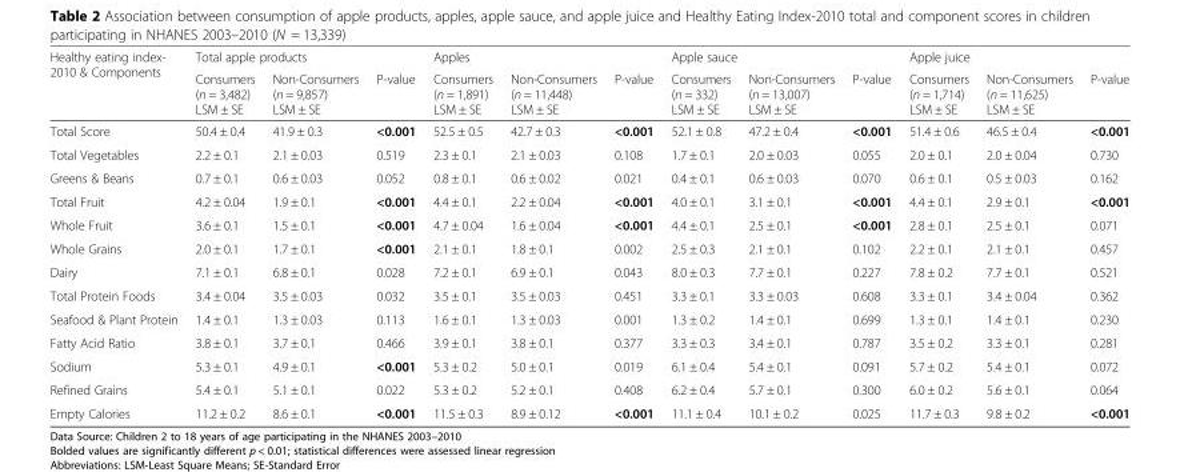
<table><thead><tr><td rowspan="2">Healthy eating index- 2010 &amp; Components</td><td colspan="3">Total apple products</td><td colspan="3">Apples</td><td colspan="3">Apple sauce</td><td colspan="3">Apple juice</td></tr><tr><td>Consumers (n = 3,482) LSM ± SE</td><td>Non-Consumers (n = 9,857) LSM ± SE</td><td>P-value</td><td>Consumers (n = 1,891) LSM ± SE</td><td>Non-Consumers (n = 11,448) LSM ± SE</td><td>P-value</td><td>Consumers (n = 332) LSM ± SE</td><td>Non-Consumers (n = 13,007) LSM ± SE</td><td>P-value</td><td>Consumers (n = 1,714) LSM ± SE</td><td>Non-Consumers (n = 11,625) LSM ± SE</td><td>P-value</td></tr></thead><tbody><tr><td>Total Score</td><td>50.4 ± 0.4</td><td>41.9 ± 0.3</td><td>&lt;0.001</td><td>52.5 ± 0.5</td><td>42.7 ± 0.3</td><td>&lt;0.001</td><td>52.1 ± 0.8</td><td>47.2 ± 0.4</td><td>&lt;0.001</td><td>51.4 ± 0.6</td><td>46.5 ± 0.4</td><td>&lt;0.001</td></tr><tr><td>Total Vegetables</td><td>2.2 ± 0.1</td><td>2.1 ± 0.03</td><td>0.519</td><td>2.3 ± 0.1</td><td>2.1 ± 0.03</td><td>0.108</td><td>1.7 ± 0.1</td><td>2.0 ± 0.03</td><td>0.055</td><td>2.0 ± 0.1</td><td>2.0 ± 0.04</td><td>0.730</td></tr><tr><td>Greens &amp; Beans</td><td>0.7 ± 0.1</td><td>0.6 ± 0.03</td><td>0.052</td><td>0.8 ± 0.1</td><td>0.6 ± 0.02</td><td>0.021</td><td>0.4 ± 0.1</td><td>0.6 ± 0.03</td><td>0.070</td><td>0.6 ± 0.1</td><td>0.5 ± 0.03</td><td>0.162</td></tr><tr><td>Total Fruit</td><td>4.2 ± 0.04</td><td>1.9 ± 0.1</td><td>&lt;0.001</td><td>4.4 ± 0.1</td><td>2.2 ± 0.04</td><td>&lt;0.001</td><td>4.0 ± 0.1</td><td>3.1 ± 0.1</td><td>&lt;0.001</td><td>4.4 ± 0.1</td><td>2.9 ± 0.1</td><td>&lt;0.001</td></tr><tr><td>Whole Fruit</td><td>3.6 ± 0.1</td><td>1.5 ± 0.1</td><td>&lt;0.001</td><td>4.7 ± 0.04</td><td>1.6 ± 0.04</td><td>&lt;0.001</td><td>4.4 ± 0.1</td><td>2.5 ± 0.1</td><td>&lt;0.001</td><td>2.8 ± 0.1</td><td>2.5 ± 0.1</td><td>0.071</td></tr><tr><td>Whole Grains</td><td>2.0 ± 0.1</td><td>1.7 ± 0.1</td><td>&lt;0.001</td><td>2.1 ± 0.1</td><td>1.8 ± 0.1</td><td>0.002</td><td>2.5 ± 0.3</td><td>2.1 ± 0.1</td><td>0.102</td><td>2.2 ± 0.1</td><td>2.1 ± 0.1</td><td>0.457</td></tr><tr><td>Dairy</td><td>7.1 ± 0.1</td><td>6.8 ± 0.1</td><td>0.028</td><td>7.2 ± 0.1</td><td>6.9 ± 0.1</td><td>0.043</td><td>8.0 ± 0.3</td><td>7.7 ± 0.1</td><td>0.227</td><td>7.8 ± 0.2</td><td>7.7 ± 0.1</td><td>0.521</td></tr><tr><td>Total Protein Foods</td><td>3.4 ± 0.04</td><td>3.5 ± 0.03</td><td>0.032</td><td>3.5 ± 0.1</td><td>3.5 ± 0.03</td><td>0.451</td><td>3.3 ± 0.1</td><td>3.3 ± 0.03</td><td>0.608</td><td>3.3 ± 0.1</td><td>3.4 ± 0.04</td><td>0.362</td></tr><tr><td>Seafood &amp; Plant Protein</td><td>1.4 ± 0.1</td><td>1.3 ± 0.03</td><td>0.113</td><td>1.6 ± 0.1</td><td>1.3 ± 0.03</td><td>0.001</td><td>1.3 ± 0.2</td><td>1.4 ± 0.1</td><td>0.699</td><td>1.3 ± 0.1</td><td>1.4 ± 0.1</td><td>0.230</td></tr><tr><td>Fatty Acid Ratio</td><td>3.8 ± 0.1</td><td>3.7 ± 0.1</td><td>0.466</td><td>3.9 ± 0.1</td><td>3.8 ± 0.1</td><td>0.377</td><td>3.3 ± 0.3</td><td>3.4 ± 0.1</td><td>0.787</td><td>3.5 ± 0.2</td><td>3.3 ± 0.1</td><td>0.281</td></tr><tr><td>Sodium</td><td>5.3 ± 0.1</td><td>4.9 ± 0.1</td><td>&lt;0.001</td><td>5.3 ± 0.2</td><td>5.0 ± 0.1</td><td>0.019</td><td>6.1 ± 0.4</td><td>5.4 ± 0.1</td><td>0.091</td><td>5.7 ± 0.2</td><td>5.4 ± 0.1</td><td>0.072</td></tr><tr><td>Refined Grains</td><td>5.4 ± 0.1</td><td>5.1 ± 0.1</td><td>0.022</td><td>5.3 ± 0.2</td><td>5.2 ± 0.1</td><td>0.408</td><td>6.2 ± 0.4</td><td>5.7 ± 0.1</td><td>0.300</td><td>6.0 ± 0.2</td><td>5.6 ± 0.1</td><td>0.064</td></tr><tr><td>Empty Calories</td><td>11.2 ± 0.2</td><td>8.6 ± 0.1</td><td>&lt;0.001</td><td>11.5 ± 0.3</td><td>8.9 ± 0.12</td><td>&lt;0.001</td><td>11.1 ± 0.4</td><td>10.1 ± 0.2</td><td>0.025</td><td>11.7 ± 0.3</td><td>9.8 ± 0.2</td><td>&lt;0.001</td></tr></tbody></table>